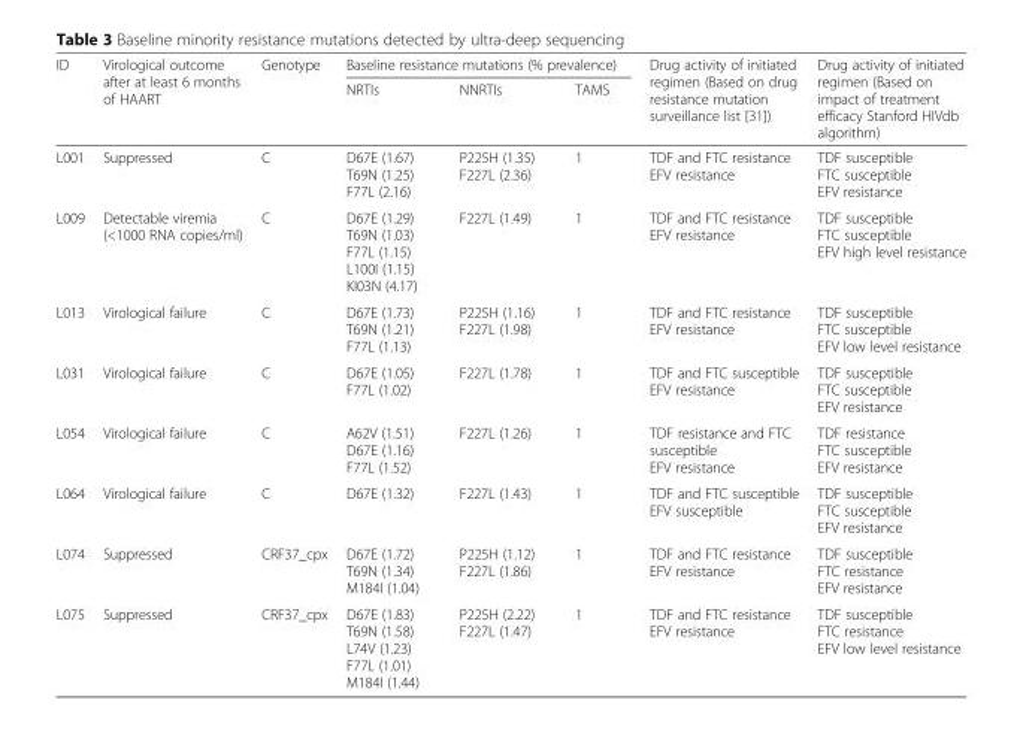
<table><thead><tr><td rowspan="2">ID</td><td rowspan="2">Virological outcome after at least 6 months of HAART</td><td rowspan="2">Genotype</td><td colspan="3">Baseline resistance mutations (% prevalence)</td><td rowspan="2">Drug activity of initiated regimen (Based on drug resistance mutation surveillance list [31])</td><td rowspan="2">Drug activity of initiated regimen (Based on impact of treatment efficacy Stanford HIVdb algorithm)</td></tr><tr><td>NRTIs</td><td>NNRTIs</td><td>TAMS</td></tr></thead><tbody><tr><td>L001</td><td>Suppressed</td><td>C</td><td>D67E (1.67) T69N (1.25) F77L (2.16)</td><td>P225H (1.35) F227L (2.36)</td><td>1</td><td>TDF and FTC resistance EFV resistance</td><td>TDF susceptible FTC susceptible EFV resistance</td></tr><tr><td>L009</td><td>Detectable viremia (&lt;1000 RNA copies/ml)</td><td>C</td><td>D67E (1.29) T69N (1.03) F77L (1.15) L100I (1.15) KI03N (4.17)</td><td>F227L (1.49)</td><td>1</td><td>TDF and FTC resistance EFV resistance</td><td>TDF susceptible FTC susceptible EFV high level resistance</td></tr><tr><td>L013</td><td>Virological failure</td><td>C</td><td>D67E (1.73) T69N (1.21) F77L (1.13)</td><td>P225H (1.16) F227L (1.98)</td><td>1</td><td>TDF and FTC resistance EFV resistance</td><td>TDF susceptible FTC susceptible EFV low level resistance</td></tr><tr><td>L031</td><td>Virological failure</td><td>C</td><td>D67E (1.05) F77L (1.02)</td><td>F227L (1.78)</td><td>1</td><td>TDF and FTC susceptible EFV resistance</td><td>TDF susceptible FTC susceptible EFV resistance</td></tr><tr><td>L054</td><td>Virological failure</td><td>C</td><td>A62V (1.51) D67E (1.16) F77L (1.52)</td><td>F227L (1.26)</td><td>1</td><td>TDF resistance and FTC susceptible EFV resistance</td><td>TDF resistance FTC susceptible EFV resistance</td></tr><tr><td>L064</td><td>Virological failure</td><td>C</td><td>D67E (1.32)</td><td>F227L (1.43)</td><td>1</td><td>TDF and FTC susceptible EFV susceptible</td><td>TDF susceptible FTC susceptible EFV resistance</td></tr><tr><td>L074</td><td>Suppressed</td><td>CRF37_cpx</td><td>D67E (1.72) T69N (1.34) M184I (1.04)</td><td>P225H (1.12) F227L (1.86)</td><td>1</td><td>TDF and FTC resistance EFV resistance</td><td>TDF susceptible FTC resistance EFV resistance</td></tr><tr><td>L075</td><td>Suppressed</td><td>CRF37_cpx</td><td>D67E (1.83) T69N (1.58) L74V (1.23) F77L (1.01) M184I (1.44)</td><td>P225H (2.22) F227L (1.47)</td><td>1</td><td>TDF and FTC resistance EFV resistance</td><td>TDF susceptible FTC resistance EFV low level resistance</td></tr></tbody></table>